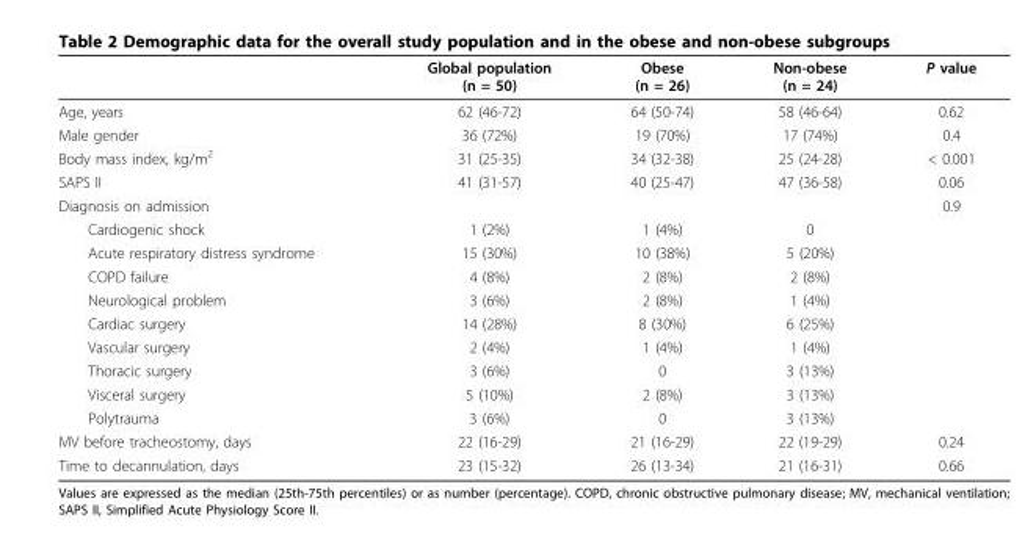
<table><thead><tr><td></td><td>Global population (n = 50)</td><td>Obese (n = 26)</td><td>Non-obese (n = 24)</td><td>P value</td></tr></thead><tbody><tr><td>Age, years</td><td>62 (46-72)</td><td>64 (50-74)</td><td>58 (46-64)</td><td>0.62</td></tr><tr><td>Male gender</td><td>36 (72%)</td><td>19 (70%)</td><td>17 (74%)</td><td>0.4</td></tr><tr><td>Body mass index, kg/m<sup>2</sup></td><td>31 (25-35)</td><td>34 (32-38)</td><td>25 (24-28)</td><td>&lt; 0.001</td></tr><tr><td>SAPS II</td><td>41 (31-57)</td><td>40 (25-47)</td><td>47 (36-58)</td><td>0.06</td></tr><tr><td>Diagnosis on admission</td><td></td><td></td><td></td><td>0.9</td></tr><tr><td>Cardiogenic shock</td><td>1 (2%)</td><td>1 (4%)</td><td>0</td><td></td></tr><tr><td>Acute respiratory distress syndrome</td><td>15 (30%)</td><td>10 (38%)</td><td>5 (20%)</td><td></td></tr><tr><td>COPD failure</td><td>4 (8%)</td><td>2 (8%)</td><td>2 (8%)</td><td></td></tr><tr><td>Neurological problem</td><td>3 (6%)</td><td>2 (8%)</td><td>1 (4%)</td><td></td></tr><tr><td>Cardiac surgery</td><td>14 (28%)</td><td>8 (30%)</td><td>6 (25%)</td><td></td></tr><tr><td>Vascular surgery</td><td>2 (4%)</td><td>1 (4%)</td><td>1 (4%)</td><td></td></tr><tr><td>Thoracic surgery</td><td>3 (6%)</td><td>0</td><td>3 (13%)</td><td></td></tr><tr><td>Visceral surgery</td><td>5 (10%)</td><td>2 (8%)</td><td>3 (13%)</td><td></td></tr><tr><td>Polytrauma</td><td>3 (6%)</td><td>0</td><td>3 (13%)</td><td></td></tr><tr><td>MV before tracheostomy, days</td><td>22 (16-29)</td><td>21 (16-29)</td><td>22 (19-29)</td><td>0.24</td></tr><tr><td>Time to decannulation, days</td><td>23 (15-32)</td><td>26 (13-34)</td><td>21 (16-31)</td><td>0.66</td></tr></tbody></table>